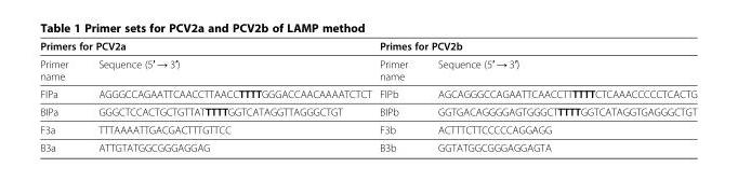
<table><thead><tr><td colspan="2">Primers for PCV2a</td><td colspan="2">Primes for PCV2b</td></tr><tr><td>Primer name</td><td>Sequence (5′ → 3′)</td><td>Primer name</td><td>Sequence (5′ → 3′)</td></tr></thead><tbody><tr><td>FIPa</td><td>AGGGCCAGAATTCAACCTTAACCTTTTGGGACCAACAAAATCTCT</td><td>FIPb</td><td>AGCAGGGCCAGAATTCAACCTTTTTTCTCAAACCCCCTCACTG</td></tr><tr><td>BIPa</td><td>GGGCTCCACTGCTGTTATTTTTGGTCATAGGTTAGGGCTGT</td><td>BIPb</td><td>GGTGACAGGGGAGTGGGCTTTTTGGTCATAGGTGAGGGCTGT</td></tr><tr><td>F3a</td><td>TTTAAAATTGACGACTTTGTTCC</td><td>F3b</td><td>ACTTTCTTCCCCCAGGAGG</td></tr><tr><td>B3a</td><td>ATTGTATGGCGGGAGGAG</td><td>B3b</td><td>GGTATGGCGGGAGGAGTA</td></tr></tbody></table>